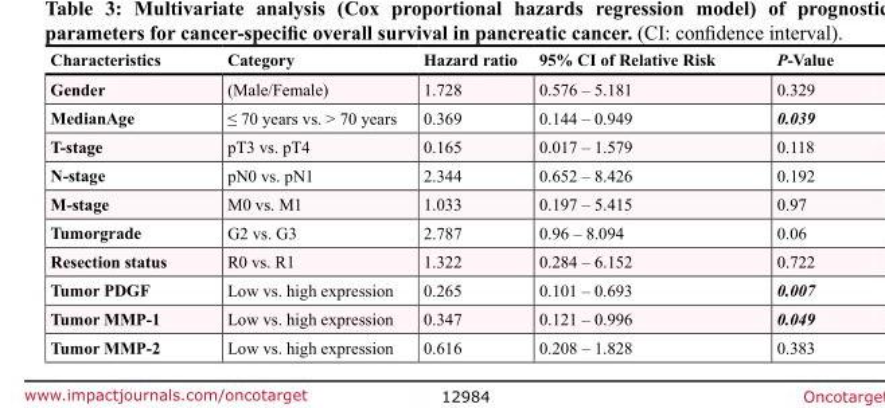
<table><thead><tr><td>Characteristics</td><td>Category</td><td>Hazard ratio</td><td>95% CI of Relative Risk</td><td>P-Value</td></tr></thead><tbody><tr><td>Gender</td><td>(Male/Female)</td><td>1.728</td><td>0.576 – 5.181</td><td>0.329</td></tr><tr><td>MedianAge</td><td>≤ 70 years vs. &gt; 70 years</td><td>0.369</td><td>0.144 – 0.949</td><td>0.039</td></tr><tr><td>T-stage</td><td>pT3 vs. pT4</td><td>0.165</td><td>0.017 – 1.579</td><td>0.118</td></tr><tr><td>N-stage</td><td>pN0 vs. pN1</td><td>2.344</td><td>0.652 – 8.426</td><td>0.192</td></tr><tr><td>M-stage</td><td>M0 vs. M1</td><td>1.033</td><td>0.197 – 5.415</td><td>0.97</td></tr><tr><td>Tumorgrade</td><td>G2 vs. G3</td><td>2.787</td><td>0.96 – 8.094</td><td>0.06</td></tr><tr><td>Resection status</td><td>R0 vs. R1</td><td>1.322</td><td>0.284 – 6.152</td><td>0.722</td></tr><tr><td>Tumor PDGF</td><td>Low vs. high expression</td><td>0.265</td><td>0.101 – 0.693</td><td>0.007</td></tr><tr><td>Tumor MMP-1</td><td>Low vs. high expression</td><td>0.347</td><td>0.121 – 0.996</td><td>0.049</td></tr><tr><td>Tumor MMP-2</td><td>Low vs. high expression</td><td>0.616</td><td>0.208 – 1.828</td><td>0.383</td></tr></tbody></table>